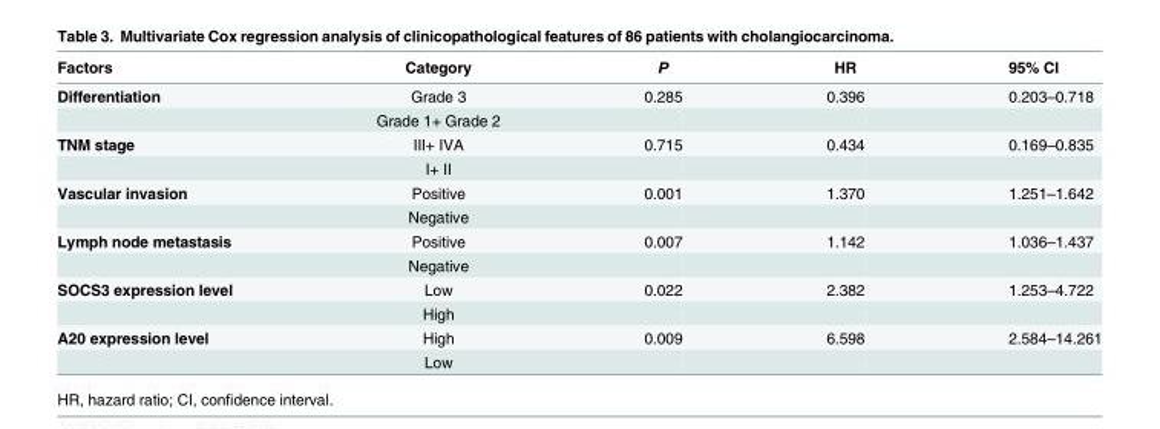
<table><thead><tr><td>Factors</td><td>Category</td><td>P</td><td>HR</td><td>95% CI</td></tr></thead><tbody><tr><td rowspan="2">Differentiation</td><td>Grade 3</td><td>0.285</td><td>0.396</td><td>0.203–0.718</td></tr><tr><td>Grade 1+ Grade 2</td><td></td><td></td><td></td></tr><tr><td rowspan="2">TNM stage</td><td>III+ IVA</td><td>0.715</td><td>0.434</td><td>0.169–0.835</td></tr><tr><td>I+ II</td><td></td><td></td><td></td></tr><tr><td rowspan="2">Vascular invasion</td><td>Positive</td><td>0.001</td><td>1.370</td><td>1.251–1.642</td></tr><tr><td>Negative</td><td></td><td></td><td></td></tr><tr><td rowspan="2">Lymph node metastasis</td><td>Positive</td><td>0.007</td><td>1.142</td><td>1.036–1.437</td></tr><tr><td>Negative</td><td></td><td></td><td></td></tr><tr><td rowspan="2">SOCS3 expression level</td><td>Low</td><td>0.022</td><td>2.382</td><td>1.253–4.722</td></tr><tr><td>High</td><td></td><td></td><td></td></tr><tr><td rowspan="2">A20 expression level</td><td>High</td><td>0.009</td><td>6.598</td><td>2.584–14.261</td></tr><tr><td>Low</td><td></td><td></td><td></td></tr></tbody></table>